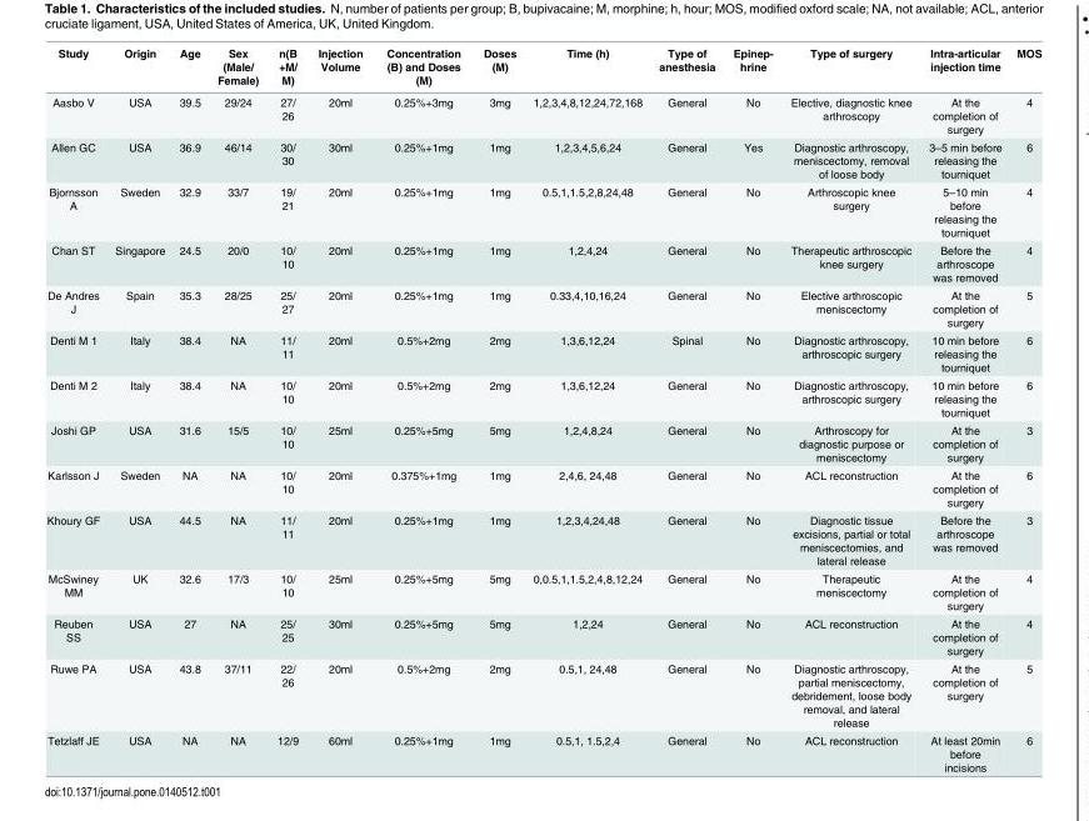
<table><thead><tr><td>Study</td><td>Origin</td><td>Age</td><td>Sex (Male/ Female)</td><td>n(B +M/ M)</td><td>Injection Volume</td><td>Concentration (B) and Doses (M)</td><td>Doses (M)</td><td>Time (h)</td><td>Type of anesthesia</td><td>Epinep- hrine</td><td>Type of surgery</td><td>Intra-articular injection time</td><td>MOS</td></tr></thead><tbody><tr><td>Aasbo V</td><td>USA</td><td>39.5</td><td>29/24</td><td>27/ 26</td><td>20ml</td><td>0.25%+3mg</td><td>3mg</td><td>1,2,3,4,8,12,24,72,168</td><td>General</td><td>No</td><td>Elective, diagnostic knee arthroscopy</td><td>At the completion of surgery</td><td>4</td></tr><tr><td>Allen GC</td><td>USA</td><td>36.9</td><td>46/14</td><td>30/ 30</td><td>30ml</td><td>0.25%+1mg</td><td>1mg</td><td>1,2,3,4,5,6,24</td><td>General</td><td>Yes</td><td>Diagnostic arthroscopy, meniscectomy, removal of loose body</td><td>3–5 min before releasing the tourniquet</td><td>6</td></tr><tr><td>Bjornsson A</td><td>Sweden</td><td>32.9</td><td>33/7</td><td>19/ 21</td><td>20ml</td><td>0.25%+1mg</td><td>1mg</td><td>0.5,1,1.5,2,8,24,48</td><td>General</td><td>No</td><td>Arthroscopic knee surgery</td><td>5–10 min before releasing the tourniquet</td><td>4</td></tr><tr><td>Chan ST</td><td>Singapore</td><td>24.5</td><td>20/0</td><td>10/ 10</td><td>20ml</td><td>0.25%+1mg</td><td>1mg</td><td>1,2,4,24</td><td>General</td><td>No</td><td>Therapeutic arthroscopic knee surgery</td><td>Before the arthroscope was removed</td><td>4</td></tr><tr><td>De Andres J</td><td>Spain</td><td>35.3</td><td>28/25</td><td>25/ 27</td><td>20ml</td><td>0.25%+1mg</td><td>1mg</td><td>0.33,4,10,16,24</td><td>General</td><td>No</td><td>Elective arthroscopic meniscectomy</td><td>At the completion of surgery</td><td>5</td></tr><tr><td>Denti M 1</td><td>Italy</td><td>38.4</td><td>NA</td><td>11/ 11</td><td>20ml</td><td>0.5%+2mg</td><td>2mg</td><td>1,3,6,12,24</td><td>Spinal</td><td>No</td><td>Diagnostic arthroscopy, arthroscopic surgery</td><td>10 min before releasing the tourniquet</td><td>6</td></tr><tr><td>Denti M 2</td><td>Italy</td><td>38.4</td><td>NA</td><td>10/ 10</td><td>20ml</td><td>0.5%+2mg</td><td>2mg</td><td>1,3,6,12,24</td><td>General</td><td>No</td><td>Diagnostic arthroscopy, arthroscopic surgery</td><td>10 min before releasing the tourniquet</td><td>6</td></tr><tr><td>Joshi GP</td><td>USA</td><td>31.6</td><td>15/5</td><td>10/ 10</td><td>25ml</td><td>0.25%+5mg</td><td>5mg</td><td>1,2,4,8,24</td><td>General</td><td>No</td><td>Arthroscopy for diagnostic purpose or meniscectomy</td><td>At the completion of surgery</td><td>3</td></tr><tr><td>Karlsson J</td><td>Sweden</td><td>NA</td><td>NA</td><td>10/ 10</td><td>20ml</td><td>0.375%+1mg</td><td>1mg</td><td>2,4,6, 24,48</td><td>General</td><td>No</td><td>ACL reconstruction</td><td>At the completion of surgery</td><td>6</td></tr><tr><td>Khoury GF</td><td>USA</td><td>44.5</td><td>NA</td><td>11/ 11</td><td>20ml</td><td>0.25%+1mg</td><td>1mg</td><td>1,2,3,4,24,48</td><td>General</td><td>No</td><td>Diagnostic tissue excisions, partial or total meniscectomies, and lateral release</td><td>Before the arthroscope was removed</td><td>3</td></tr><tr><td>McSwiney MM</td><td>UK</td><td>32.6</td><td>17/3</td><td>10/ 10</td><td>25ml</td><td>0.25%+5mg</td><td>5mg</td><td>0,0.5,1,1.5,2,4,8,12,24</td><td>General</td><td>No</td><td>Therapeutic meniscectomy</td><td>At the completion of surgery</td><td>4</td></tr><tr><td>Reuben SS</td><td>USA</td><td>27</td><td>NA</td><td>25/ 25</td><td>30ml</td><td>0.25%+5mg</td><td>5mg</td><td>1,2,24</td><td>General</td><td>No</td><td>ACL reconstruction</td><td>At the completion of surgery</td><td>4</td></tr><tr><td>Ruwe PA</td><td>USA</td><td>43.8</td><td>37/11</td><td>22/ 26</td><td>20ml</td><td>0.5%+2mg</td><td>2mg</td><td>0.5,1, 24,48</td><td>General</td><td>No</td><td>Diagnostic arthroscopy, partial meniscectomy, debridement, loose body removal, and lateral release</td><td>At the completion of surgery</td><td>5</td></tr><tr><td>Tetzlaff JE</td><td>USA</td><td>NA</td><td>NA</td><td>12/9</td><td>60ml</td><td>0.25%+1mg</td><td>1mg</td><td>0.5,1, 1.5,2,4</td><td>General</td><td>No</td><td>ACL reconstruction</td><td>At least 20min before incisions</td><td>6</td></tr></tbody></table>